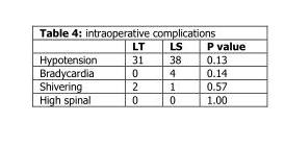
<table><thead><tr><td></td><td>LT</td><td>LS</td><td>P value</td></tr></thead><tbody><tr><td>Hypotension</td><td>31</td><td>38</td><td>0.13</td></tr><tr><td>Bradycardia</td><td>0</td><td>4</td><td>0.14</td></tr><tr><td>Shivering</td><td>2</td><td>1</td><td>0.57</td></tr><tr><td>High spinal</td><td>0</td><td>0</td><td>1.00</td></tr></tbody></table>